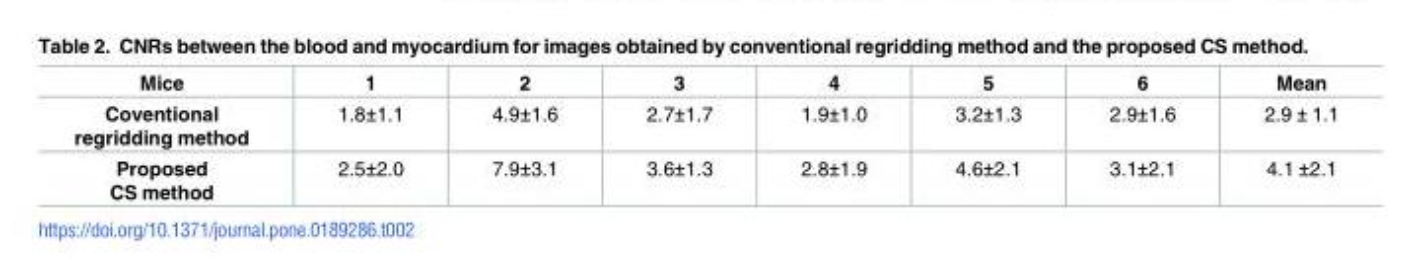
<table><thead><tr><td>Mice</td><td>1</td><td>2</td><td>3</td><td>4</td><td>5</td><td>6</td><td>Mean</td></tr></thead><tbody><tr><td>Coventional regridding method</td><td>1.8±1.1</td><td>4.9±1.6</td><td>2.7±1.7</td><td>1.9±1.0</td><td>3.2±1.3</td><td>2.9±1.6</td><td>2.9 ± 1.1</td></tr><tr><td>Proposed CS method</td><td>2.5±2.0</td><td>7.9±3.1</td><td>3.6±1.3</td><td>2.8±1.9</td><td>4.6±2.1</td><td>3.1±2.1</td><td>4.1 ±2.1</td></tr></tbody></table>